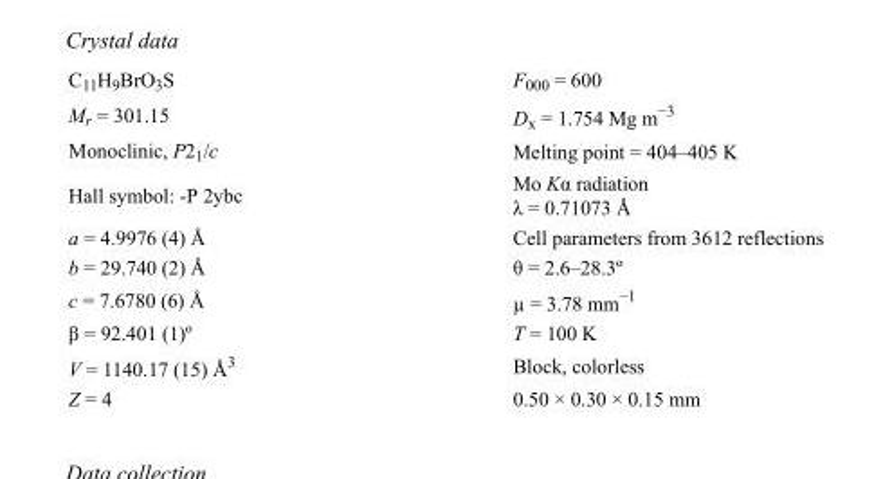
<table><tbody><tr><td>C<sub>11</sub>H<sub>9</sub>BrO<sub>3</sub>S</td><td>F000 = 600</td></tr><tr><td>M<sub>r</sub> = 301.15</td><td>D<sub>x</sub> = 1.754 Mg m<sup>−3</sup></td></tr><tr><td>Monoclinic, P2<sub>1</sub>/c</td><td>Melting point = 404–405 K</td></tr><tr><td>Hall symbol: -P 2ybc</td><td>Mo Kα radiation λ = 0.71073 Å</td></tr><tr><td>a = 4.9976 (4) Å</td><td>Cell parameters from 3612 reflections</td></tr><tr><td>b = 29.740 (2) Å</td><td>θ = 2.6–28.3º</td></tr><tr><td>c = 7.6780 (6) Å</td><td>µ = 3.78 mm<sup>−1</sup></td></tr><tr><td>β = 92.401 (1)º</td><td>T = 100 K</td></tr><tr><td>V = 1140.17 (15) Å<sup>3</sup></td><td>Block, colorless</td></tr><tr><td>Z = 4</td><td>0.50 × 0.30 × 0.15 mm</td></tr></tbody></table>